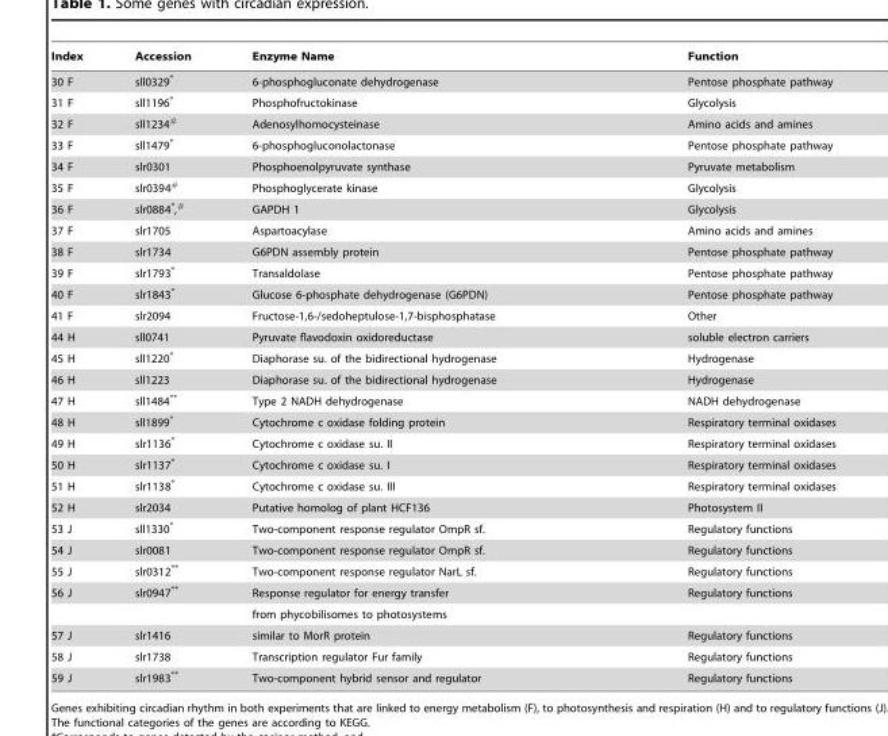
<table><thead><tr><td>Index</td><td>Accession</td><td>Enzyme Name</td><td>Function</td></tr></thead><tbody><tr><td>30 F</td><td>sll0329*</td><td>6-phosphogluconate dehydrogenase</td><td>Pentose phosphate pathway</td></tr><tr><td>31 F</td><td>sll1196*</td><td>Phosphofructokinase</td><td>Glycolysis</td></tr><tr><td>32 F</td><td>sll1234#</td><td>Adenosylhomocysteinase</td><td>Amino acids and amines</td></tr><tr><td>33 F</td><td>sll1479*</td><td>6-phosphogluconolactonase</td><td>Pentose phosphate pathway</td></tr><tr><td>34 F</td><td>slr0301</td><td>Phosphoenolpyruvate synthase</td><td>Pyruvate metabolism</td></tr><tr><td>35 F</td><td>slr0394#</td><td>Phosphoglycerate kinase</td><td>Glycolysis</td></tr><tr><td>36 F</td><td>slr0884*,#</td><td>GAPDH 1</td><td>Glycolysis</td></tr><tr><td>37 F</td><td>slr1705</td><td>Aspartoacylase</td><td>Amino acids and amines</td></tr><tr><td>38 F</td><td>slr1734</td><td>G6PDN assembly protein</td><td>Pentose phosphate pathway</td></tr><tr><td>39 F</td><td>slr1793*</td><td>Transaldolase</td><td>Pentose phosphate pathway</td></tr><tr><td>40 F</td><td>slr1843*</td><td>Glucose 6-phosphate dehydrogenase (G6PDN)</td><td>Pentose phosphate pathway</td></tr><tr><td>41 F</td><td>slr2094</td><td>Fructose-1,6-/sedoheptulose-1,7-bisphosphatase</td><td>Other</td></tr><tr><td>44 H</td><td>sll0741</td><td>Pyruvate flavodoxin oxidoreductase</td><td>soluble electron carriers</td></tr><tr><td>45 H</td><td>sll1220*</td><td>Diaphorase su. of the bidirectional hydrogenase</td><td>Hydrogenase</td></tr><tr><td>46 H</td><td>sll1223</td><td>Diaphorase su. of the bidirectional hydrogenase</td><td>Hydrogenase</td></tr><tr><td>47 H</td><td>sll1484**</td><td>Type 2 NADH dehydrogenase</td><td>NADH dehydrogenase</td></tr><tr><td>48 H</td><td>sll1899*</td><td>Cytochrome c oxidase folding protein</td><td>Respiratory terminal oxidases</td></tr><tr><td>49 H</td><td>slr1136*</td><td>Cytochrome c oxidase su. II</td><td>Respiratory terminal oxidases</td></tr><tr><td>50 H</td><td>slr1137*</td><td>Cytochrome c oxidase su. I</td><td>Respiratory terminal oxidases</td></tr><tr><td>51 H</td><td>slr1138*</td><td>Cytochrome c oxidase su. III</td><td>Respiratory terminal oxidases</td></tr><tr><td>52 H</td><td>slr2034</td><td>Putative homolog of plant HCF136</td><td>Photosystem II</td></tr><tr><td>53 J</td><td>sll1330*</td><td>Two-component response regulator OmpR sf.</td><td>Regulatory functions</td></tr><tr><td>54 J</td><td>slr0081</td><td>Two-component response regulator OmpR sf.</td><td>Regulatory functions</td></tr><tr><td>55 J</td><td>slr0312**</td><td>Two-component response regulator NarL sf.</td><td>Regulatory functions</td></tr><tr><td rowspan="2">56 J</td><td>slr0947**</td><td>Response regulator for energy transfer</td><td>Regulatory functions</td></tr><tr><td></td><td>from phycobilisomes to photosystems</td><td></td></tr><tr><td>57 J</td><td>slr1416</td><td>similar to MorR protein</td><td>Regulatory functions</td></tr><tr><td>58 J</td><td>slr1738</td><td>Transcription regulator Fur family</td><td>Regulatory functions</td></tr><tr><td>59 J</td><td>slr1983**</td><td>Two-component hybrid sensor and regulator</td><td>Regulatory functions</td></tr></tbody></table>